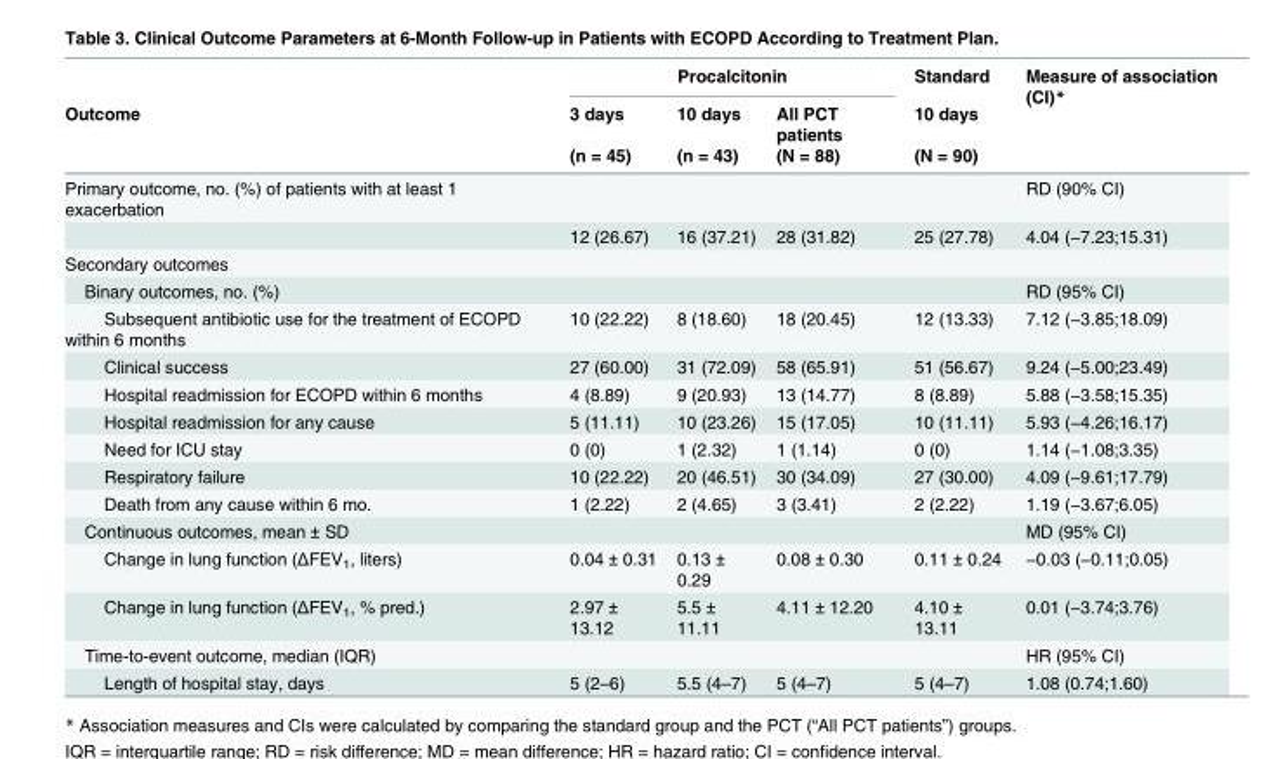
<table><thead><tr><td rowspan="3">Outcome</td><td colspan="3">Procalcitonin</td><td rowspan="3">Standard 10 days (N = 90)</td><td rowspan="3">Measure of association (CI)*</td></tr><tr><td rowspan="2">3 days (n = 45)</td><td rowspan="2">10 days (n = 43)</td><td rowspan="2">All PCT patients (N = 88)</td></tr><tr></tr></thead><tbody><tr><td rowspan="2">Primary outcome, no. (%) of patients with at least 1 exacerbation</td><td></td><td></td><td></td><td></td><td>RD (90% CI)</td></tr><tr><td>12 (26.67)</td><td>16 (37.21)</td><td>28 (31.82)</td><td>25 (27.78)</td><td>4.04 (−7.23;15.31)</td></tr><tr><td colspan="6">Secondary outcomes</td></tr><tr><td>Binary outcomes, no. (%)</td><td></td><td></td><td></td><td></td><td>RD (95% CI)</td></tr><tr><td>Subsequent antibiotic use for the treatment of ECOPD within 6 months</td><td>10 (22.22)</td><td>8 (18.60)</td><td>18 (20.45)</td><td>12 (13.33)</td><td>7.12 (−3.85;18.09)</td></tr><tr><td>Clinical success</td><td>27 (60.00)</td><td>31 (72.09)</td><td>58 (65.91)</td><td>51 (56.67)</td><td>9.24 (−5.00;23.49)</td></tr><tr><td>Hospital readmission for ECOPD within 6 months</td><td>4 (8.89)</td><td>9 (20.93)</td><td>13 (14.77)</td><td>8 (8.89)</td><td>5.88 (−3.58;15.35)</td></tr><tr><td>Hospital readmission for any cause</td><td>5 (11.11)</td><td>10 (23.26)</td><td>15 (17.05)</td><td>10 (11.11)</td><td>5.93 (−4.26;16.17)</td></tr><tr><td>Need for ICU stay</td><td>0 (0)</td><td>1 (2.32)</td><td>1 (1.14)</td><td>0 (0)</td><td>1.14 (−1.08;3.35)</td></tr><tr><td>Respiratory failure</td><td>10 (22.22)</td><td>20 (46.51)</td><td>30 (34.09)</td><td>27 (30.00)</td><td>4.09 (−9.61;17.79)</td></tr><tr><td>Death from any cause within 6 mo.</td><td>1 (2.22)</td><td>2 (4.65)</td><td>3 (3.41)</td><td>2 (2.22)</td><td>1.19 (−3.67;6.05)</td></tr><tr><td>Continuous outcomes, mean ± SD</td><td></td><td></td><td></td><td></td><td>MD (95% CI)</td></tr><tr><td>Change in lung function (ΔFEV<sub>1</sub>, liters)</td><td>0.04 ± 0.31</td><td>0.13 ± 0.29</td><td>0.08 ± 0.30</td><td>0.11 ± 0.24</td><td>−0.03 (−0.11;0.05)</td></tr><tr><td>Change in lung function (ΔFEV<sub>1</sub>, % pred.)</td><td>2.97 ± 13.12</td><td>5.5 ± 11.11</td><td>4.11 ± 12.20</td><td>4.10 ± 13.11</td><td>0.01 (−3.74;3.76)</td></tr><tr><td>Time-to-event outcome, median (IQR)</td><td></td><td></td><td></td><td></td><td>HR (95% CI)</td></tr><tr><td>Length of hospital stay, days</td><td>5 (2–6)</td><td>5.5 (4–7)</td><td>5 (4–7)</td><td>5 (4–7)</td><td>1.08 (0.74;1.60)</td></tr></tbody></table>